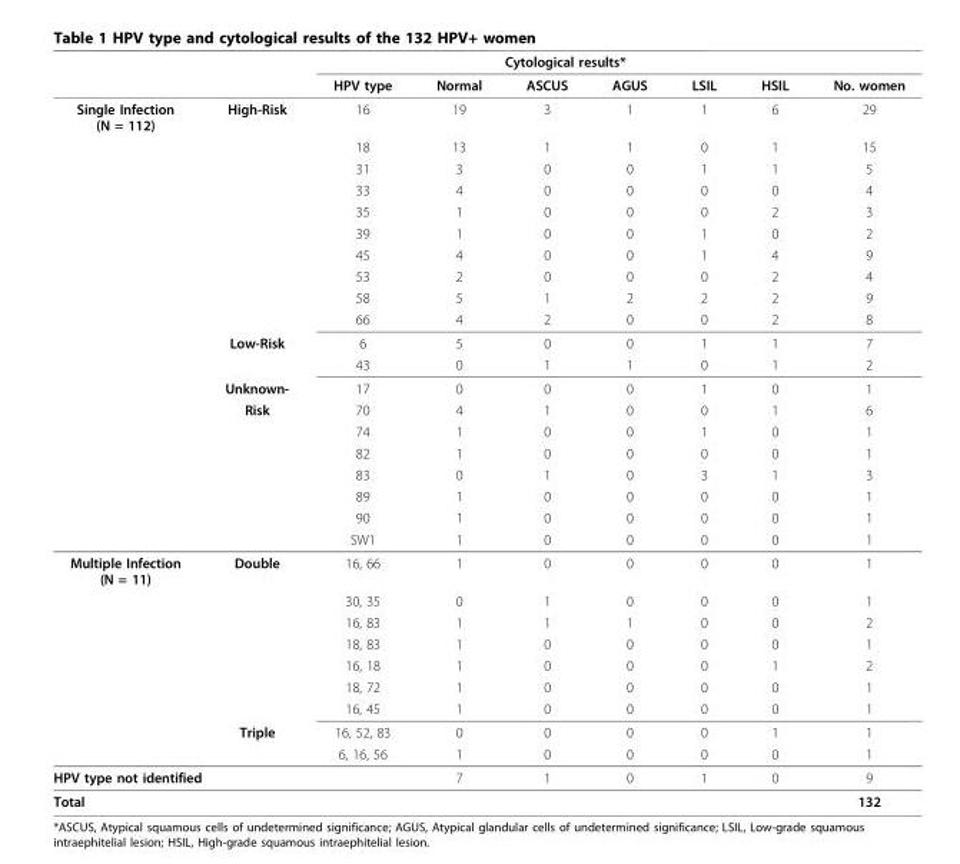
<table><thead><tr><td rowspan="2"></td><td colspan="8">Cytological results*</td></tr><tr><td></td><td>HPV type</td><td>Normal</td><td>ASCUS</td><td>AGUS</td><td>LSIL</td><td>HSIL</td><td>No. women</td></tr></thead><tbody><tr><td rowspan="20">Single Infection (N = 112)</td><td>High-Risk</td><td>16</td><td>19</td><td>3</td><td>1</td><td>1</td><td>6</td><td>29</td></tr><tr><td></td><td>18</td><td>13</td><td>1</td><td>1</td><td>0</td><td>1</td><td>15</td></tr><tr><td></td><td>31</td><td>3</td><td>0</td><td>0</td><td>1</td><td>1</td><td>5</td></tr><tr><td></td><td>33</td><td>4</td><td>0</td><td>0</td><td>0</td><td>0</td><td>4</td></tr><tr><td></td><td>35</td><td>1</td><td>0</td><td>0</td><td>0</td><td>2</td><td>3</td></tr><tr><td></td><td>39</td><td>1</td><td>0</td><td>0</td><td>1</td><td>0</td><td>2</td></tr><tr><td></td><td>45</td><td>4</td><td>0</td><td>0</td><td>1</td><td>4</td><td>9</td></tr><tr><td></td><td>53</td><td>2</td><td>0</td><td>0</td><td>0</td><td>2</td><td>4</td></tr><tr><td></td><td>58</td><td>5</td><td>1</td><td>2</td><td>2</td><td>2</td><td>9</td></tr><tr><td></td><td>66</td><td>4</td><td>2</td><td>0</td><td>0</td><td>2</td><td>8</td></tr><tr><td>Low-Risk</td><td>6</td><td>5</td><td>0</td><td>0</td><td>1</td><td>1</td><td>7</td></tr><tr><td></td><td>43</td><td>0</td><td>1</td><td>1</td><td>0</td><td>1</td><td>2</td></tr><tr><td>Unknown-</td><td>17</td><td>0</td><td>0</td><td>0</td><td>1</td><td>0</td><td>1</td></tr><tr><td>Risk</td><td>70</td><td>4</td><td>1</td><td>0</td><td>0</td><td>1</td><td>6</td></tr><tr><td></td><td>74</td><td>1</td><td>0</td><td>0</td><td>1</td><td>0</td><td>1</td></tr><tr><td></td><td>82</td><td>1</td><td>0</td><td>0</td><td>0</td><td>0</td><td>1</td></tr><tr><td></td><td>83</td><td>0</td><td>1</td><td>0</td><td>3</td><td>1</td><td>3</td></tr><tr><td></td><td>89</td><td>1</td><td>0</td><td>0</td><td>0</td><td>0</td><td>1</td></tr><tr><td></td><td>90</td><td>1</td><td>0</td><td>0</td><td>0</td><td>0</td><td>1</td></tr><tr><td></td><td>SW1</td><td>1</td><td>0</td><td>0</td><td>0</td><td>0</td><td>1</td></tr><tr><td rowspan="9">Multiple Infection (N = 11)</td><td>Double</td><td>16, 66</td><td>1</td><td>0</td><td>0</td><td>0</td><td>0</td><td>1</td></tr><tr><td></td><td>30, 35</td><td>0</td><td>1</td><td>0</td><td>0</td><td>0</td><td>1</td></tr><tr><td></td><td>16, 83</td><td>1</td><td>1</td><td>1</td><td>0</td><td>0</td><td>2</td></tr><tr><td></td><td>18, 83</td><td>1</td><td>0</td><td>0</td><td>0</td><td>0</td><td>1</td></tr><tr><td></td><td>16, 18</td><td>1</td><td>0</td><td>0</td><td>0</td><td>1</td><td>2</td></tr><tr><td></td><td>18, 72</td><td>1</td><td>0</td><td>0</td><td>0</td><td>0</td><td>1</td></tr><tr><td></td><td>16, 45</td><td>1</td><td>0</td><td>0</td><td>0</td><td>0</td><td>1</td></tr><tr><td>Triple</td><td>16, 52, 83</td><td>0</td><td>0</td><td>0</td><td>0</td><td>1</td><td>1</td></tr><tr><td></td><td>6, 16, 56</td><td>1</td><td>0</td><td>0</td><td>0</td><td>0</td><td>1</td></tr><tr><td colspan="3">HPV type not identified</td><td>7</td><td>1</td><td>0</td><td>1</td><td>0</td><td>9</td></tr><tr><td>Total</td><td></td><td></td><td></td><td></td><td></td><td></td><td></td><td>132</td></tr></tbody></table>